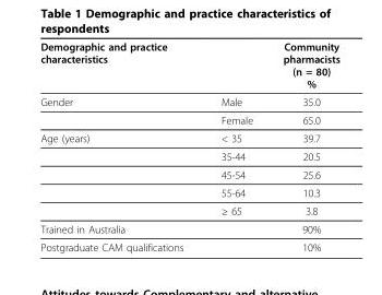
<table><thead><tr><td>Demographic and practice characteristics</td><td></td><td>Community pharmacists (n = 80) %</td></tr></thead><tbody><tr><td rowspan="2">Gender</td><td>Male</td><td>35.0</td></tr><tr><td>Female</td><td>65.0</td></tr><tr><td rowspan="5">Age (years)</td><td>&lt; 35</td><td>39.7</td></tr><tr><td>35-44</td><td>20.5</td></tr><tr><td>45-54</td><td>25.6</td></tr><tr><td>55-64</td><td>10.3</td></tr><tr><td>≥ 65</td><td>3.8</td></tr><tr><td>Trained in Australia</td><td></td><td>90%</td></tr><tr><td>Postgraduate CAM qualifications</td><td></td><td>10%</td></tr></tbody></table>